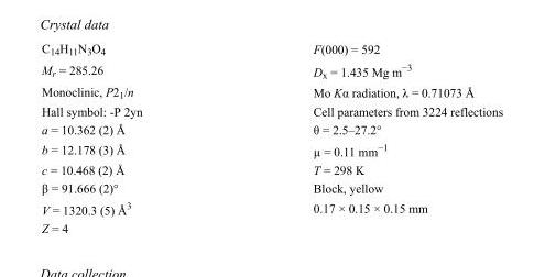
<table><tbody><tr><td>C<sub>14</sub>H<sub>11</sub>N<sub>3</sub>O<sub>4</sub></td><td>F(000) = 592</td></tr><tr><td>M<sub>r</sub> = 285.26</td><td>D<sub>x</sub> = 1.435 Mg m<sup>−3</sup></td></tr><tr><td>Monoclinic, P2<sub>1</sub>/n</td><td>Mo Kα radiation, λ = 0.71073 Å</td></tr><tr><td>Hall symbol: -P 2yn</td><td>Cell parameters from 3224 reflections</td></tr><tr><td>a = 10.362 (2) Å</td><td>θ = 2.5–27.2°</td></tr><tr><td>b = 12.178 (3) Å</td><td>µ = 0.11 mm<sup>−1</sup></td></tr><tr><td>c = 10.468 (2) Å</td><td>T = 298 K</td></tr><tr><td>β = 91.666 (2)°</td><td>Block, yellow</td></tr><tr><td>V = 1320.3 (5) Å<sup>3</sup></td><td>0.17 × 0.15 × 0.15 mm</td></tr><tr><td>Z = 4</td><td></td></tr></tbody></table>